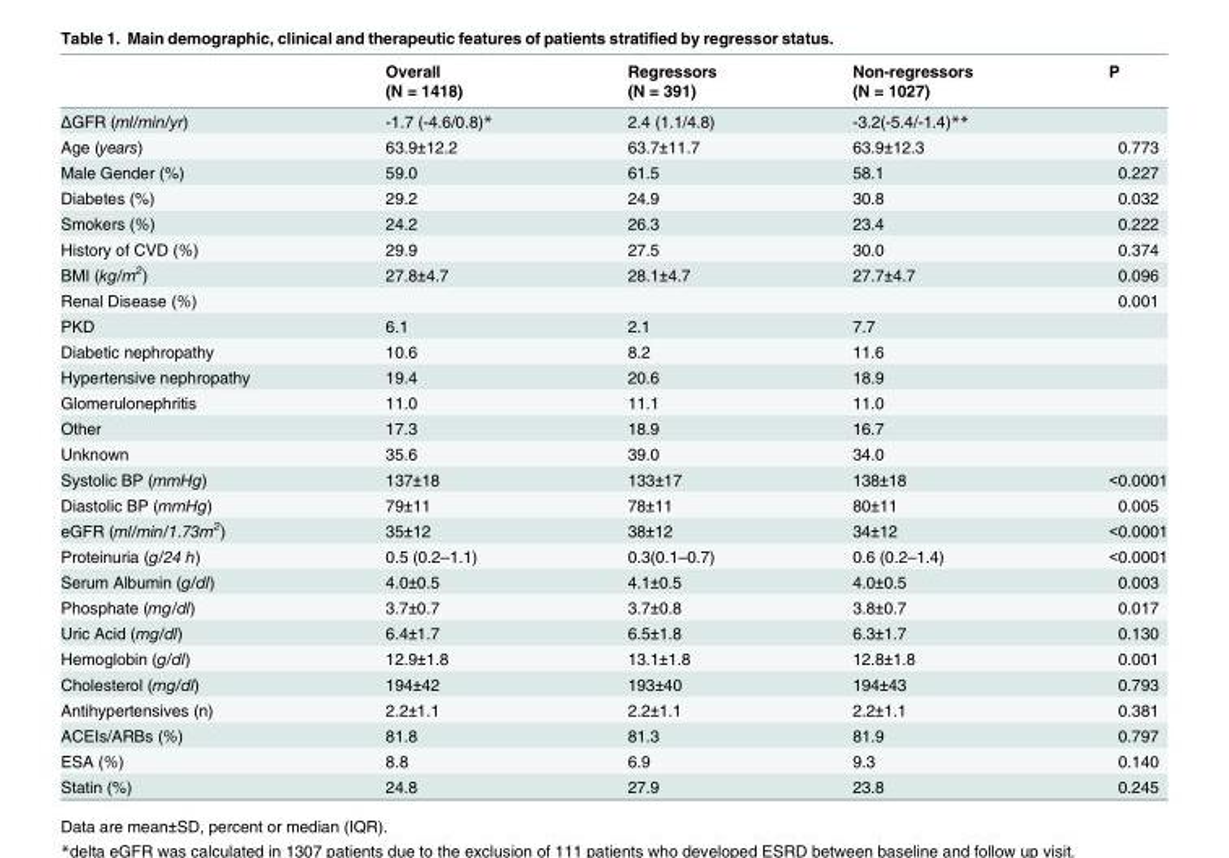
<table><thead><tr><td rowspan="2"></td><td rowspan="2">Overall (N = 1418)</td><td rowspan="2">Regressors (N = 391)</td><td rowspan="2">Non-regressors (N = 1027)</td><td rowspan="2">P</td></tr><tr></tr></thead><tbody><tr><td>ΔGFR (ml/min/yr)</td><td>-1.7 (-4.6/0.8)*</td><td>2.4 (1.1/4.8)</td><td>-3.2(-5.4/-1.4)**</td><td></td></tr><tr><td>Age (years)</td><td>63.9±12.2</td><td>63.7±11.7</td><td>63.9±12.3</td><td>0.773</td></tr><tr><td>Male Gender (%)</td><td>59.0</td><td>61.5</td><td>58.1</td><td>0.227</td></tr><tr><td>Diabetes (%)</td><td>29.2</td><td>24.9</td><td>30.8</td><td>0.032</td></tr><tr><td>Smokers (%)</td><td>24.2</td><td>26.3</td><td>23.4</td><td>0.222</td></tr><tr><td>History of CVD (%)</td><td>29.9</td><td>27.5</td><td>30.0</td><td>0.374</td></tr><tr><td>BMI (kg/m<sup>2</sup>)</td><td>27.8±4.7</td><td>28.1±4.7</td><td>27.7±4.7</td><td>0.096</td></tr><tr><td>Renal Disease (%)</td><td></td><td></td><td></td><td>0.001</td></tr><tr><td>PKD</td><td>6.1</td><td>2.1</td><td>7.7</td><td></td></tr><tr><td>Diabetic nephropathy</td><td>10.6</td><td>8.2</td><td>11.6</td><td></td></tr><tr><td>Hypertensive nephropathy</td><td>19.4</td><td>20.6</td><td>18.9</td><td></td></tr><tr><td>Glomerulonephritis</td><td>11.0</td><td>11.1</td><td>11.0</td><td></td></tr><tr><td>Other</td><td>17.3</td><td>18.9</td><td>16.7</td><td></td></tr><tr><td>Unknown</td><td>35.6</td><td>39.0</td><td>34.0</td><td></td></tr><tr><td>Systolic BP (mmHg)</td><td>137±18</td><td>133±17</td><td>138±18</td><td>&lt;0.0001</td></tr><tr><td>Diastolic BP (mmHg)</td><td>79±11</td><td>78±11</td><td>80±11</td><td>0.005</td></tr><tr><td>eGFR (ml/min/1.73m<sup>2</sup>)</td><td>35±12</td><td>38±12</td><td>34±12</td><td>&lt;0.0001</td></tr><tr><td>Proteinuria (g/24 h)</td><td>0.5 (0.2–1.1)</td><td>0.3(0.1–0.7)</td><td>0.6 (0.2–1.4)</td><td>&lt;0.0001</td></tr><tr><td>Serum Albumin (g/dl)</td><td>4.0±0.5</td><td>4.1±0.5</td><td>4.0±0.5</td><td>0.003</td></tr><tr><td>Phosphate (mg/dl)</td><td>3.7±0.7</td><td>3.7±0.8</td><td>3.8±0.7</td><td>0.017</td></tr><tr><td>Uric Acid (mg/dl)</td><td>6.4±1.7</td><td>6.5±1.8</td><td>6.3±1.7</td><td>0.130</td></tr><tr><td>Hemoglobin (g/dl)</td><td>12.9±1.8</td><td>13.1±1.8</td><td>12.8±1.8</td><td>0.001</td></tr><tr><td>Cholesterol (mg/dl)</td><td>194±42</td><td>193±40</td><td>194±43</td><td>0.793</td></tr><tr><td>Antihypertensives (n)</td><td>2.2±1.1</td><td>2.2±1.1</td><td>2.2±1.1</td><td>0.381</td></tr><tr><td>ACEIs/ARBs (%)</td><td>81.8</td><td>81.3</td><td>81.9</td><td>0.797</td></tr><tr><td>ESA (%)</td><td>8.8</td><td>6.9</td><td>9.3</td><td>0.140</td></tr><tr><td>Statin (%)</td><td>24.8</td><td>27.9</td><td>23.8</td><td>0.245</td></tr></tbody></table>